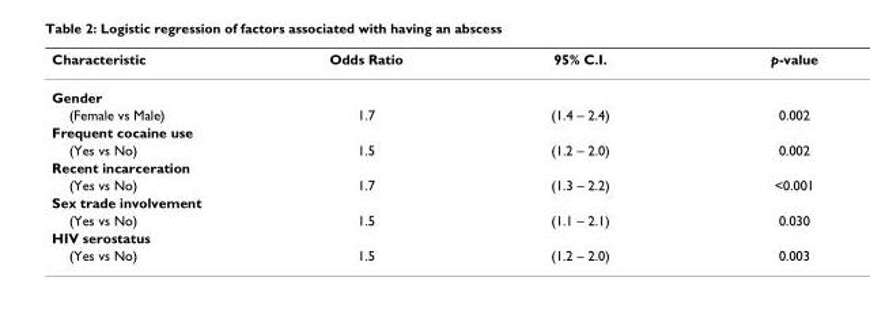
<table><thead><tr><td>Characteristic</td><td>Odds Ratio</td><td>95% C.I.</td><td>p-value</td></tr></thead><tbody><tr><td colspan="4">Gender</td></tr><tr><td>(Female vs Male)</td><td>1.7</td><td>(1.4 – 2.4)</td><td>0.002</td></tr><tr><td colspan="4">Frequent cocaine use</td></tr><tr><td>(Yes vs No)</td><td>1.5</td><td>(1.2 – 2.0)</td><td>0.002</td></tr><tr><td colspan="4">Recent incarceration</td></tr><tr><td>(Yes vs No)</td><td>1.7</td><td>(1.3 – 2.2)</td><td>&lt;0.001</td></tr><tr><td colspan="4">Sex trade involvement</td></tr><tr><td>(Yes vs No)</td><td>1.5</td><td>(1.1 – 2.1)</td><td>0.030</td></tr><tr><td colspan="4">HIV serostatus</td></tr><tr><td>(Yes vs No)</td><td>1.5</td><td>(1.2 – 2.0)</td><td>0.003</td></tr></tbody></table>